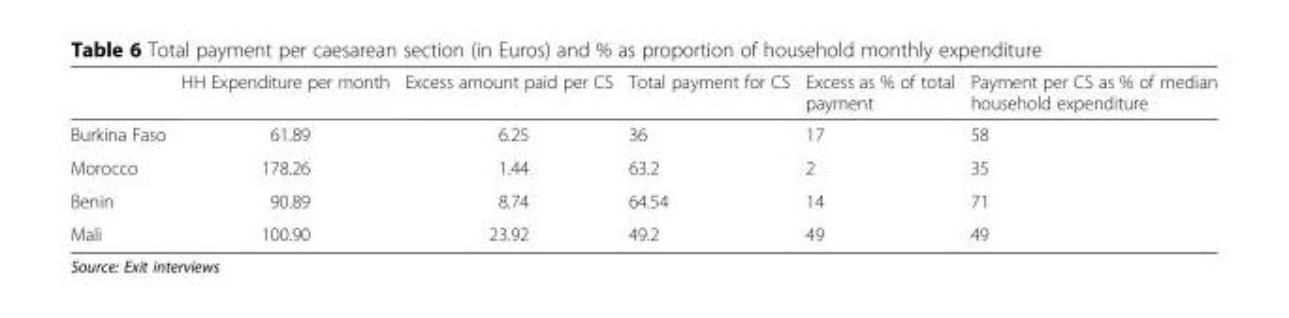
<table><thead><tr><td></td><td>HH Expenditure per month</td><td>Excess amount paid per CS</td><td>Total payment for CS</td><td>Excess as % of total payment</td><td>Payment per CS as % of median household expenditure</td></tr></thead><tbody><tr><td>Burkina Faso</td><td>61.89</td><td>6.25</td><td>36</td><td>17</td><td>58</td></tr><tr><td>Morocco</td><td>178.26</td><td>1.44</td><td>63.2</td><td>2</td><td>35</td></tr><tr><td>Benin</td><td>90.89</td><td>8.74</td><td>64.54</td><td>14</td><td>71</td></tr><tr><td>Mali</td><td>100.90</td><td>23.92</td><td>49.2</td><td>49</td><td>49</td></tr></tbody></table>